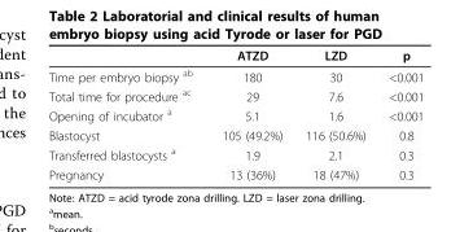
<table><thead><tr><td></td><td>ATZD</td><td>LZD</td><td>p</td></tr></thead><tbody><tr><td>Time per embryo biopsy <sup>ab</sup></td><td>180</td><td>30</td><td>&lt;0.001</td></tr><tr><td>Total time for procedure <sup>ac</sup></td><td>29</td><td>7.6</td><td>&lt;0.001</td></tr><tr><td>Opening of incubator <sup>a</sup></td><td>5.1</td><td>1.6</td><td>&lt;0.001</td></tr><tr><td>Blastocyst</td><td>105 (49.2%)</td><td>116 (50.6%)</td><td>0.8</td></tr><tr><td>Transferred blastocysts <sup>a</sup></td><td>1.9</td><td>2.1</td><td>0.3</td></tr><tr><td>Pregnancy</td><td>13 (36%)</td><td>18 (47%)</td><td>0.3</td></tr></tbody></table>